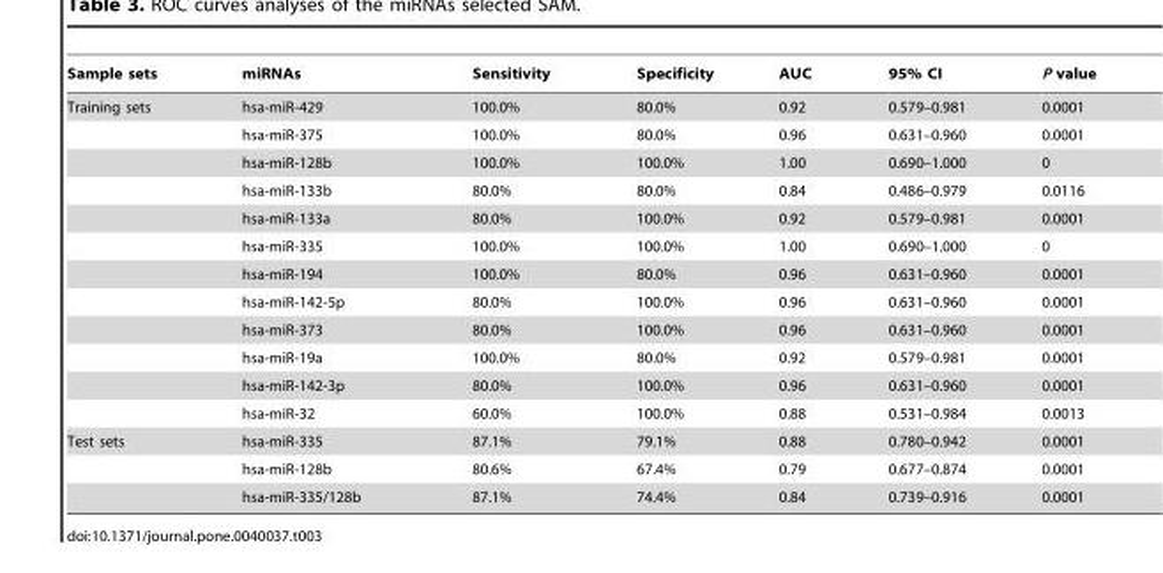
<table><thead><tr><td>Sample sets</td><td>miRNAs</td><td>Sensitivity</td><td>Specificity</td><td>AUC</td><td>95% CI</td><td>P value</td></tr></thead><tbody><tr><td rowspan="12">Training sets</td><td>hsa-miR-429</td><td>100.0%</td><td>80.0%</td><td>0.92</td><td>0.579–0.981</td><td>0.0001</td></tr><tr><td>hsa-miR-375</td><td>100.0%</td><td>80.0%</td><td>0.96</td><td>0.631–0.960</td><td>0.0001</td></tr><tr><td>hsa-miR-128b</td><td>100.0%</td><td>100.0%</td><td>1.00</td><td>0.690–1.000</td><td>0</td></tr><tr><td>hsa-miR-133b</td><td>80.0%</td><td>80.0%</td><td>0.84</td><td>0.486–0.979</td><td>0.0116</td></tr><tr><td>hsa-miR-133a</td><td>80.0%</td><td>100.0%</td><td>0.92</td><td>0.579–0.981</td><td>0.0001</td></tr><tr><td>hsa-miR-335</td><td>100.0%</td><td>100.0%</td><td>1.00</td><td>0.690–1.000</td><td>0</td></tr><tr><td>hsa-miR-194</td><td>100.0%</td><td>80.0%</td><td>0.96</td><td>0.631–0.960</td><td>0.0001</td></tr><tr><td>hsa-miR-142-5p</td><td>80.0%</td><td>100.0%</td><td>0.96</td><td>0.631–0.960</td><td>0.0001</td></tr><tr><td>hsa-miR-373</td><td>80.0%</td><td>100.0%</td><td>0.96</td><td>0.631–0.960</td><td>0.0001</td></tr><tr><td>hsa-miR-19a</td><td>100.0%</td><td>80.0%</td><td>0.92</td><td>0.579–0.981</td><td>0.0001</td></tr><tr><td>hsa-miR-142-3p</td><td>80.0%</td><td>100.0%</td><td>0.96</td><td>0.631–0.960</td><td>0.0001</td></tr><tr><td>hsa-miR-32</td><td>60.0%</td><td>100.0%</td><td>0.88</td><td>0.531–0.984</td><td>0.0013</td></tr><tr><td rowspan="3">Test sets</td><td>hsa-miR-335</td><td>87.1%</td><td>79.1%</td><td>0.88</td><td>0.780–0.942</td><td>0.0001</td></tr><tr><td>hsa-miR-128b</td><td>80.6%</td><td>67.4%</td><td>0.79</td><td>0.677–0.874</td><td>0.0001</td></tr><tr><td>hsa-miR-335/128b</td><td>87.1%</td><td>74.4%</td><td>0.84</td><td>0.739–0.916</td><td>0.0001</td></tr></tbody></table>